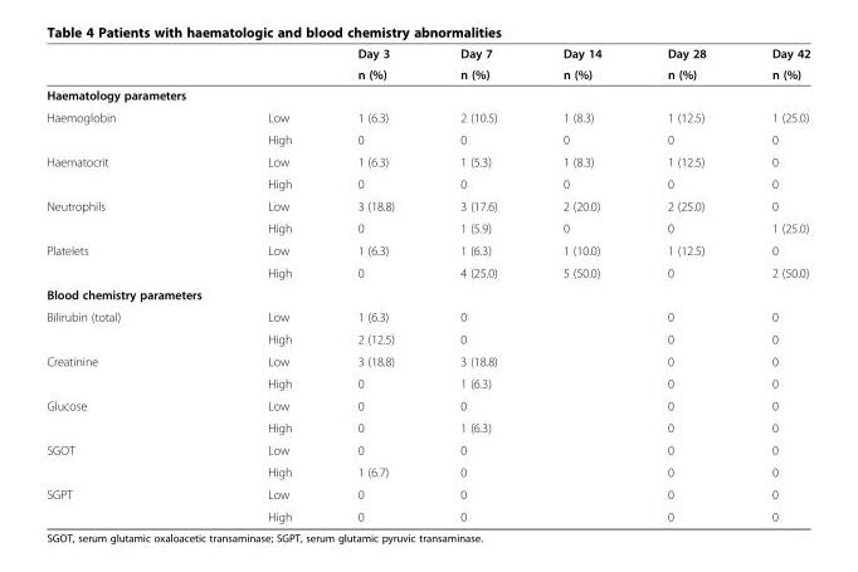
<table><thead><tr><td rowspan="2"></td><td rowspan="2"></td><td rowspan="2">Day 3 n (%)</td><td rowspan="2">Day 7 n (%)</td><td rowspan="2">Day 14 n (%)</td><td rowspan="2">Day 28 n (%)</td><td rowspan="2">Day 42 n (%)</td></tr><tr></tr></thead><tbody><tr><td colspan="7">Haematology parameters</td></tr><tr><td rowspan="2">Haemoglobin</td><td>Low</td><td>1 (6.3)</td><td>2 (10.5)</td><td>1 (8.3)</td><td>1 (12.5)</td><td>1 (25.0)</td></tr><tr><td>High</td><td>0</td><td>0</td><td>0</td><td>0</td><td>0</td></tr><tr><td rowspan="2">Haematocrit</td><td>Low</td><td>1 (6.3)</td><td>1 (5.3)</td><td>1 (8.3)</td><td>1 (12.5)</td><td>0</td></tr><tr><td>High</td><td>0</td><td>0</td><td>0</td><td>0</td><td>0</td></tr><tr><td rowspan="2">Neutrophils</td><td>Low</td><td>3 (18.8)</td><td>3 (17.6)</td><td>2 (20.0)</td><td>2 (25.0)</td><td>0</td></tr><tr><td>High</td><td>0</td><td>1 (5.9)</td><td>0</td><td>0</td><td>1 (25.0)</td></tr><tr><td rowspan="2">Platelets</td><td>Low</td><td>1 (6.3)</td><td>1 (6.3)</td><td>1 (10.0)</td><td>1 (12.5)</td><td>0</td></tr><tr><td>High</td><td>0</td><td>4 (25.0)</td><td>5 (50.0)</td><td>0</td><td>2 (50.0)</td></tr><tr><td colspan="7">Blood chemistry parameters</td></tr><tr><td rowspan="2">Bilirubin (total)</td><td>Low</td><td>1 (6.3)</td><td>0</td><td></td><td>0</td><td>0</td></tr><tr><td>High</td><td>2 (12.5)</td><td>0</td><td></td><td>0</td><td>0</td></tr><tr><td rowspan="2">Creatinine</td><td>Low</td><td>3 (18.8)</td><td>3 (18.8)</td><td></td><td>0</td><td>0</td></tr><tr><td>High</td><td>0</td><td>1 (6.3)</td><td></td><td>0</td><td>0</td></tr><tr><td rowspan="2">Glucose</td><td>Low</td><td>0</td><td>0</td><td></td><td>0</td><td>0</td></tr><tr><td>High</td><td>0</td><td>1 (6.3)</td><td></td><td>0</td><td>0</td></tr><tr><td rowspan="2">SGOT</td><td>Low</td><td>0</td><td>0</td><td></td><td>0</td><td>0</td></tr><tr><td>High</td><td>1 (6.7)</td><td>0</td><td></td><td>0</td><td>0</td></tr><tr><td rowspan="2">SGPT</td><td>Low</td><td>0</td><td>0</td><td></td><td>0</td><td>0</td></tr><tr><td>High</td><td>0</td><td>0</td><td></td><td>0</td><td>0</td></tr></tbody></table>